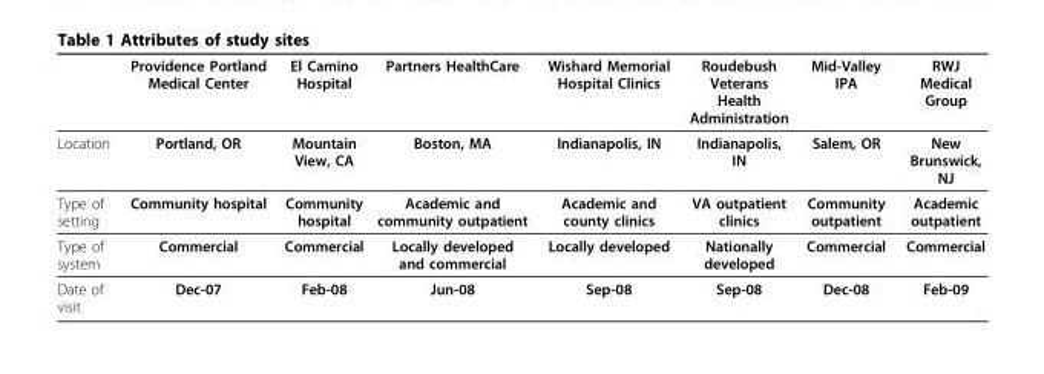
<table><thead><tr><td></td><td>Providence Portland Medical Center</td><td>El Camino Hospital</td><td>Partners HealthCare</td><td>Wishard Memorial Hospital Clinics</td><td>Roudebush Veterans Health Administration</td><td>Mid-Valley IPA</td><td>RWJ Medical Group</td></tr></thead><tbody><tr><td>Location</td><td>Portland, OR</td><td>Mountain View, CA</td><td>Boston, MA</td><td>Indianapolis, IN</td><td>Indianapolis, IN</td><td>Salem, OR</td><td>New Brunswick, NJ</td></tr><tr><td>Type of setting</td><td>Community hospital</td><td>Community hospital</td><td>Academic and community outpatient</td><td>Academic and county clinics</td><td>VA outpatient clinics</td><td>Community outpatient</td><td>Academic outpatient</td></tr><tr><td>Type of system</td><td>Commercial</td><td>Commercial</td><td>Locally developed and commercial</td><td>Locally developed</td><td>Nationally developed</td><td>Commercial</td><td>Commercial</td></tr><tr><td>Date of visit</td><td>Dec-07</td><td>Feb-08</td><td>Jun-08</td><td>Sep-08</td><td>Sep-08</td><td>Dec-08</td><td>Feb-09</td></tr></tbody></table>